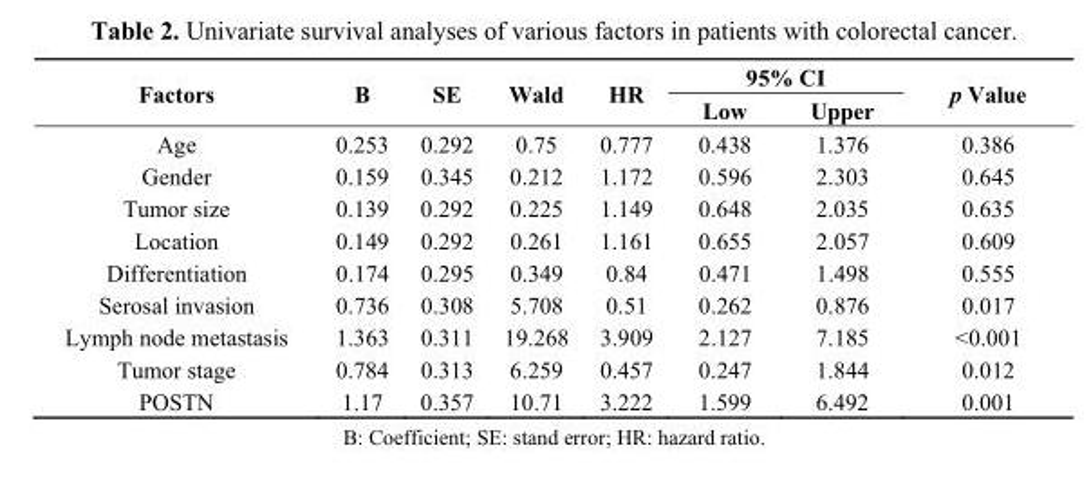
<table><thead><tr><td rowspan="2">Factors</td><td rowspan="2">B</td><td rowspan="2">SE</td><td rowspan="2">Wald</td><td rowspan="2">HR</td><td colspan="2">95% CI</td><td rowspan="2">p Value</td></tr><tr><td>Low</td><td>Upper</td></tr></thead><tbody><tr><td>Age</td><td>0.253</td><td>0.292</td><td>0.75</td><td>0.777</td><td>0.438</td><td>1.376</td><td>0.386</td></tr><tr><td>Gender</td><td>0.159</td><td>0.345</td><td>0.212</td><td>1.172</td><td>0.596</td><td>2.303</td><td>0.645</td></tr><tr><td>Tumor size</td><td>0.139</td><td>0.292</td><td>0.225</td><td>1.149</td><td>0.648</td><td>2.035</td><td>0.635</td></tr><tr><td>Location</td><td>0.149</td><td>0.292</td><td>0.261</td><td>1.161</td><td>0.655</td><td>2.057</td><td>0.609</td></tr><tr><td>Differentiation</td><td>0.174</td><td>0.295</td><td>0.349</td><td>0.84</td><td>0.471</td><td>1.498</td><td>0.555</td></tr><tr><td>Serosal invasion</td><td>0.736</td><td>0.308</td><td>5.708</td><td>0.51</td><td>0.262</td><td>0.876</td><td>0.017</td></tr><tr><td>Lymph node metastasis</td><td>1.363</td><td>0.311</td><td>19.268</td><td>3.909</td><td>2.127</td><td>7.185</td><td>&lt;0.001</td></tr><tr><td>Tumor stage</td><td>0.784</td><td>0.313</td><td>6.259</td><td>0.457</td><td>0.247</td><td>1.844</td><td>0.012</td></tr><tr><td>POSTN</td><td>1.17</td><td>0.357</td><td>10.71</td><td>3.222</td><td>1.599</td><td>6.492</td><td>0.001</td></tr></tbody></table>